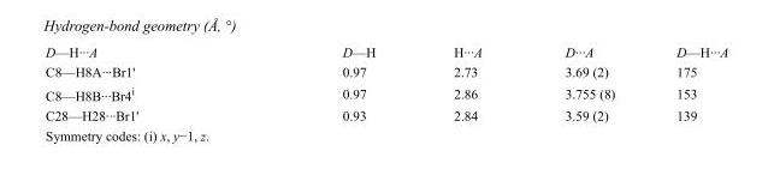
<table><tbody><tr><td>D—H···A</td><td>D—H</td><td>H···A</td><td>D···A</td><td>D—H···A</td></tr><tr><td>C8—H8A···Br1&#x27;</td><td>0.97</td><td>2.73</td><td>3.69 (2)</td><td>175</td></tr><tr><td>C8—H8B···Br4<sup>i</sup></td><td>0.97</td><td>2.86</td><td>3.755 (8)</td><td>153</td></tr><tr><td>C28—H28···Br1&#x27;</td><td>0.93</td><td>2.84</td><td>3.59 (2)</td><td>139</td></tr></tbody></table>